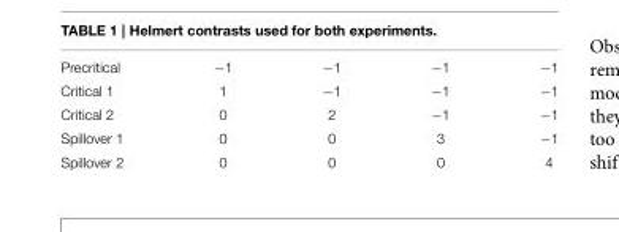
<table><tbody><tr><td>Precritical</td><td>−1</td><td>−1</td><td>−1</td><td>−1</td></tr><tr><td>Critical 1</td><td>1</td><td>−1</td><td>−1</td><td>−1</td></tr><tr><td>Critical 2</td><td>0</td><td>2</td><td>−1</td><td>−1</td></tr><tr><td>Spillover 1</td><td>0</td><td>0</td><td>3</td><td>−1</td></tr><tr><td>Spillover 2</td><td>0</td><td>0</td><td>0</td><td>4</td></tr></tbody></table>